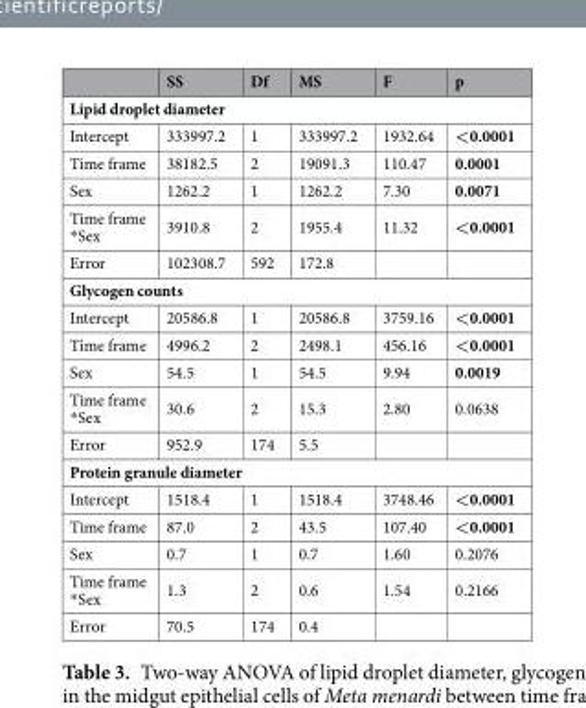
<table><thead><tr><td></td><td>SS</td><td>Df</td><td>MS</td><td>F</td><td>p</td></tr></thead><tbody><tr><td colspan="6">Lipid droplet diameter</td></tr><tr><td>Intercept</td><td>333997.2</td><td>1</td><td>333997.2</td><td>1932.64</td><td>&lt;0.0001</td></tr><tr><td>Time frame</td><td>38182.5</td><td>2</td><td>19091.3</td><td>110.47</td><td>0.0001</td></tr><tr><td>Sex</td><td>1262.2</td><td>1</td><td>1262.2</td><td>7.30</td><td>0.0071</td></tr><tr><td>Time frame *Sex</td><td>3910.8</td><td>2</td><td>1955.4</td><td>11.32</td><td>&lt;0.0001</td></tr><tr><td>Error</td><td>102308.7</td><td>592</td><td>172.8</td><td></td><td></td></tr><tr><td colspan="6">Glycogen counts</td></tr><tr><td>Intercept</td><td>20586.8</td><td>1</td><td>20586.8</td><td>3759.16</td><td>&lt;0.0001</td></tr><tr><td>Time frame</td><td>4996.2</td><td>2</td><td>2498.1</td><td>456.16</td><td>&lt;0.0001</td></tr><tr><td>Sex</td><td>54.5</td><td>1</td><td>54.5</td><td>9.94</td><td>0.0019</td></tr><tr><td>Time frame *Sex</td><td>30.6</td><td>2</td><td>15.3</td><td>2.80</td><td>0.0638</td></tr><tr><td>Error</td><td>952.9</td><td>174</td><td>5.5</td><td></td><td></td></tr><tr><td colspan="6">Protein granule diameter</td></tr><tr><td>Intercept</td><td>1518.4</td><td>1</td><td>1518.4</td><td>3748.46</td><td>&lt;0.0001</td></tr><tr><td>Time frame</td><td>87.0</td><td>2</td><td>43.5</td><td>107.40</td><td>&lt;0.0001</td></tr><tr><td>Sex</td><td>0.7</td><td>1</td><td>0.7</td><td>1.60</td><td>0.2076</td></tr><tr><td>Time frame *Sex</td><td>1.3</td><td>2</td><td>0.6</td><td>1.54</td><td>0.2166</td></tr><tr><td>Error</td><td>70.5</td><td>174</td><td>0.4</td><td></td><td></td></tr></tbody></table>